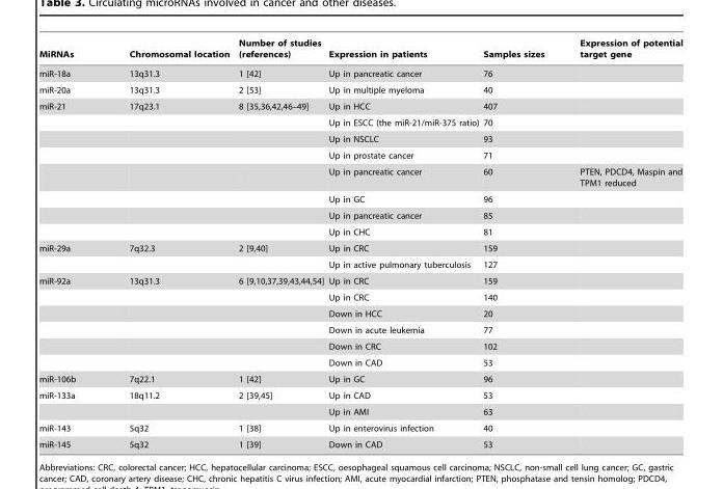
<table><thead><tr><td>MiRNAs</td><td>Chromosomal location</td><td>Number of studies (references)</td><td>Expression in patients</td><td>Samples sizes</td><td>Expression of potential target gene</td></tr></thead><tbody><tr><td>miR-18a</td><td>13q31.3</td><td>1 [42]</td><td>Up in pancreatic cancer</td><td>76</td><td></td></tr><tr><td>miR-20a</td><td>13q31.3</td><td>2 [53]</td><td>Up in multiple myeloma</td><td>40</td><td></td></tr><tr><td rowspan="8">miR-21</td><td>17q23.1</td><td>8 [35,36,42,46–49]</td><td>Up in HCC</td><td>407</td><td></td></tr><tr><td></td><td></td><td>Up in ESCC (the miR-21/miR-375 ratio)</td><td>70</td><td></td></tr><tr><td></td><td></td><td>Up in NSCLC</td><td>93</td><td></td></tr><tr><td></td><td></td><td>Up in prostate cancer</td><td>71</td><td></td></tr><tr><td></td><td></td><td>Up in pancreatic cancer</td><td>60</td><td>PTEN, PDCD4, Maspin and TPM1 reduced</td></tr><tr><td></td><td></td><td>Up in GC</td><td>96</td><td></td></tr><tr><td></td><td></td><td>Up in pancreatic cancer</td><td>85</td><td></td></tr><tr><td></td><td></td><td>Up in CHC</td><td>81</td><td></td></tr><tr><td rowspan="2">miR-29a</td><td>7q32.3</td><td>2 [9,40]</td><td>Up in CRC</td><td>159</td><td></td></tr><tr><td></td><td></td><td>Up in active pulmonary tuberculosis</td><td>127</td><td></td></tr><tr><td rowspan="6">miR-92a</td><td>13q31.3</td><td>6 [9,10,37,39,43,44,54]</td><td>Up in CRC</td><td>159</td><td></td></tr><tr><td></td><td></td><td>Up in CRC</td><td>140</td><td></td></tr><tr><td></td><td></td><td>Down in HCC</td><td>20</td><td></td></tr><tr><td></td><td></td><td>Down in acute leukemia</td><td>77</td><td></td></tr><tr><td></td><td></td><td>Down in CRC</td><td>102</td><td></td></tr><tr><td></td><td></td><td>Down in CAD</td><td>53</td><td></td></tr><tr><td>miR-106b</td><td>7q22.1</td><td>1 [42]</td><td>Up in GC</td><td>96</td><td></td></tr><tr><td rowspan="2">miR-133a</td><td>18q11.2</td><td>2 [39,45]</td><td>Up in CAD</td><td>53</td><td></td></tr><tr><td></td><td></td><td>Up in AMI</td><td>63</td><td></td></tr><tr><td>miR-143</td><td>5q32</td><td>1 [38]</td><td>Up in enterovirus infection</td><td>40</td><td></td></tr><tr><td>miR-145</td><td>5q32</td><td>1 [39]</td><td>Down in CAD</td><td>53</td><td></td></tr></tbody></table>